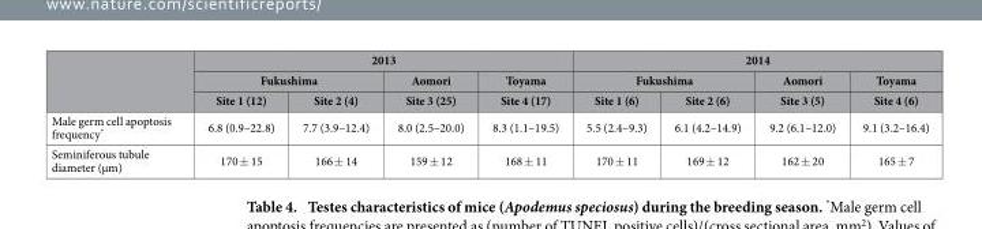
<table><thead><tr><td rowspan="3"></td><td colspan="4">2013</td><td colspan="4">2014</td></tr><tr><td colspan="2">Fukushima</td><td rowspan="2">Aomori Site 3 (25)</td><td rowspan="2">Toyama Site 4 (17)</td><td colspan="2">Fukushima</td><td rowspan="2">Aomori Site 3 (5)</td><td rowspan="2">Toyama Site 4 (6)</td></tr><tr><td>Site 1 (12)</td><td>Site 2 (4)</td><td>Site 1 (6)</td><td>Site 2 (6)</td></tr></thead><tbody><tr><td>Male germ cell apoptosis frequency*</td><td>6.8 (0.9–22.8)</td><td>7.7 (3.9–12.4)</td><td>8.0 (2.5–20.0)</td><td>8.3 (1.1–19.5)</td><td>5.5 (2.4–9.3)</td><td>6.1 (4.2–14.9)</td><td>9.2 (6.1–12.0)</td><td>9.1 (3.2–16.4)</td></tr><tr><td>Seminiferous tubule diameter (μm)</td><td>170 ± 15</td><td>166 ± 14</td><td>159 ± 12</td><td>168 ± 11</td><td>170 ± 11</td><td>169 ± 12</td><td>162 ± 20</td><td>165 ± 7</td></tr></tbody></table>